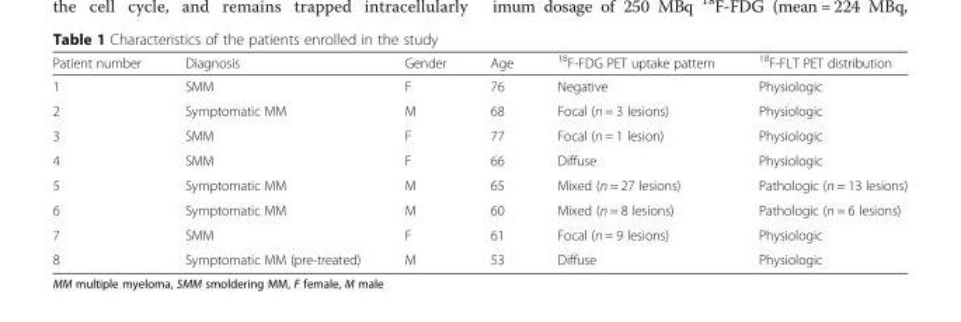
<table><thead><tr><td>Patient number</td><td>Diagnosis</td><td>Gender</td><td>Age</td><td><sup>18</sup>F-FDG PET uptake pattern</td><td><sup>18</sup>F-FLT PET distribution</td></tr></thead><tbody><tr><td>1</td><td>SMM</td><td>F</td><td>76</td><td>Negative</td><td>Physiologic</td></tr><tr><td>2</td><td>Symptomatic MM</td><td>M</td><td>68</td><td>Focal (n = 3 lesions)</td><td>Physiologic</td></tr><tr><td>3</td><td>SMM</td><td>F</td><td>77</td><td>Focal (n = 1 lesion)</td><td>Physiologic</td></tr><tr><td>4</td><td>SMM</td><td>F</td><td>66</td><td>Diffuse</td><td>Physiologic</td></tr><tr><td>5</td><td>Symptomatic MM</td><td>M</td><td>65</td><td>Mixed (n = 27 lesions)</td><td>Pathologic (n = 13 lesions)</td></tr><tr><td>6</td><td>Symptomatic MM</td><td>M</td><td>60</td><td>Mixed (n = 8 lesions)</td><td>Pathologic (n = 6 lesions)</td></tr><tr><td>7</td><td>SMM</td><td>F</td><td>61</td><td>Focal (n = 9 lesions)</td><td>Physiologic</td></tr><tr><td>8</td><td>Symptomatic MM (pre-treated)</td><td>M</td><td>53</td><td>Diffuse</td><td>Physiologic</td></tr></tbody></table>